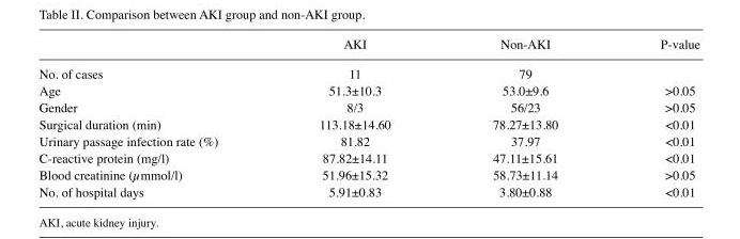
<table><thead><tr><td></td><td>AKI</td><td>Non-AKI</td><td>P-value</td></tr></thead><tbody><tr><td>No. of cases</td><td>11</td><td>79</td><td></td></tr><tr><td>Age</td><td>51.3±10.3</td><td>53.0±9.6</td><td>&gt;0.05</td></tr><tr><td>Gender</td><td>8/3</td><td>56/23</td><td>&gt;0.05</td></tr><tr><td>Surgical duration (min)</td><td>113.18±14.60</td><td>78.27±13.80</td><td>&lt;0.01</td></tr><tr><td>Urinary passage infection rate (%)</td><td>81.82</td><td>37.97</td><td>&lt;0.01</td></tr><tr><td>C-reactive protein (mg/l)</td><td>87.82±14.11</td><td>47.11±15.61</td><td>&lt;0.01</td></tr><tr><td>Blood creatinine (µmmol/l)</td><td>51.96±15.32</td><td>58.73±11.14</td><td>&gt;0.05</td></tr><tr><td>No. of hospital days</td><td>5.91±0.83</td><td>3.80±0.88</td><td>&lt;0.01</td></tr></tbody></table>